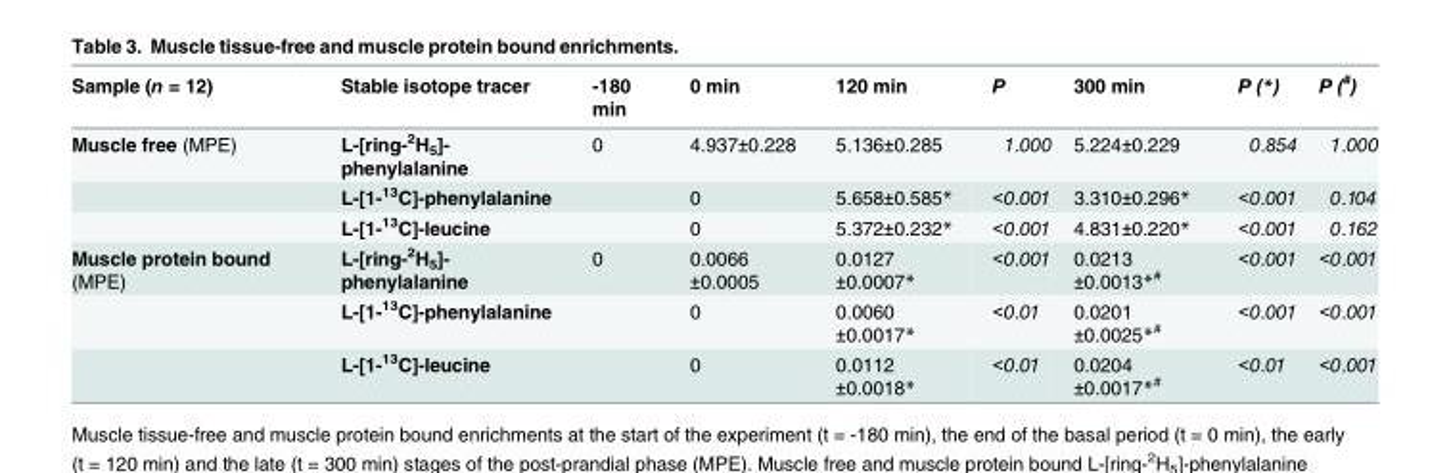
<table><thead><tr><td>Sample (n = 12)</td><td>Stable isotope tracer</td><td>-180 min</td><td>0 min</td><td>120 min</td><td>P</td><td>300 min</td><td>P (*)</td><td>P (<sup>#</sup>)</td></tr></thead><tbody><tr><td rowspan="3">Muscle free (MPE)</td><td>L-[ring-<sup>2</sup>H<sub>5</sub>]- phenylalanine</td><td>0</td><td>4.937±0.228</td><td>5.136±0.285</td><td>1.000</td><td>5.224±0.229</td><td>0.854</td><td>1.000</td></tr><tr><td>L-[1-<sup>13</sup>C]-phenylalanine</td><td></td><td>0</td><td>5.658±0.585*</td><td>&lt;0.001</td><td>3.310±0.296*</td><td>&lt;0.001</td><td>0.104</td></tr><tr><td>L-[1-<sup>13</sup>C]-leucine</td><td></td><td>0</td><td>5.372±0.232*</td><td>&lt;0.001</td><td>4.831±0.220*</td><td>&lt;0.001</td><td>0.162</td></tr><tr><td rowspan="3">Muscle protein bound (MPE)</td><td>L-[ring-<sup>2</sup>H<sub>5</sub>]- phenylalanine</td><td>0</td><td>0.0066 ±0.0005</td><td>0.0127 ±0.0007*</td><td>&lt;0.001</td><td>0.0213 ±0.0013*<sup>#</sup></td><td>&lt;0.001</td><td>&lt;0.001</td></tr><tr><td>L-[1-<sup>13</sup>C]-phenylalanine</td><td></td><td>0</td><td>0.0060 ±0.0017*</td><td>&lt;0.01</td><td>0.0201 ±0.0025*<sup>#</sup></td><td>&lt;0.001</td><td>&lt;0.001</td></tr><tr><td>L-[1-<sup>13</sup>C]-leucine</td><td></td><td>0</td><td>0.0112 ±0.0018*</td><td>&lt;0.01</td><td>0.0204 ±0.0017*<sup>#</sup></td><td>&lt;0.01</td><td>&lt;0.001</td></tr></tbody></table>